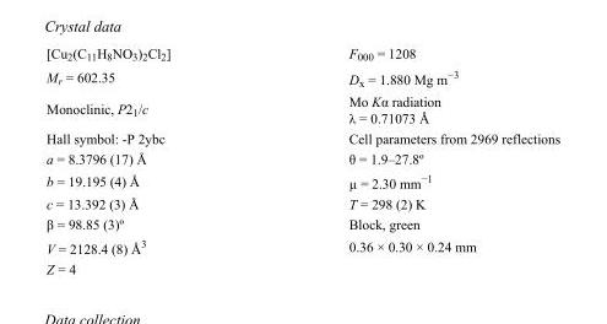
<table><tbody><tr><td>[Cu<sub>2</sub>(C<sub>11</sub>H<sub>8</sub>NO<sub>3</sub>)<sub>2</sub>Cl<sub>2</sub>]</td><td>F000 = 1208</td></tr><tr><td>M<sub>r</sub> = 602.35</td><td>D<sub>x</sub> = 1.880 Mg m<sup>−3</sup></td></tr><tr><td>Monoclinic, P2<sub>1</sub>/c</td><td>Mo Kα radiation λ = 0.71073 Å</td></tr><tr><td>Hall symbol: -P 2ybc</td><td>Cell parameters from 2969 reflections</td></tr><tr><td>a = 8.3796 (17) Å</td><td>θ = 1.9–27.8º</td></tr><tr><td>b = 19.195 (4) Å</td><td>µ = 2.30 mm<sup>−1</sup></td></tr><tr><td>c = 13.392 (3) Å</td><td>T = 298 (2) K</td></tr><tr><td>β = 98.85 (3)º</td><td>Block, green</td></tr><tr><td>V = 2128.4 (8) Å<sup>3</sup></td><td>0.36 × 0.30 × 0.24 mm</td></tr><tr><td>Z = 4</td><td></td></tr></tbody></table>